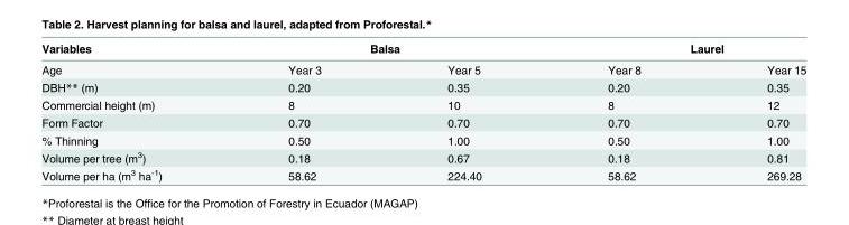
<table><thead><tr><td rowspan="2">Variables Age</td><td colspan="2">Balsa</td><td colspan="2">Laurel</td></tr><tr><td>Year 3</td><td>Year 5</td><td>Year 8</td><td>Year 15</td></tr></thead><tbody><tr><td>DBH** (m)</td><td>0.20</td><td>0.35</td><td>0.20</td><td>0.35</td></tr><tr><td>Commercial height (m)</td><td>8</td><td>10</td><td>8</td><td>12</td></tr><tr><td>Form Factor</td><td>0.70</td><td>0.70</td><td>0.70</td><td>0.70</td></tr><tr><td>% Thinning</td><td>0.50</td><td>1.00</td><td>0.50</td><td>1.00</td></tr><tr><td>Volume per tree (m<sup>3</sup>)</td><td>0.18</td><td>0.67</td><td>0.18</td><td>0.81</td></tr><tr><td>Volume per ha (m<sup>3</sup> ha<sup>-1</sup>)</td><td>58.62</td><td>224.40</td><td>58.62</td><td>269.28</td></tr></tbody></table>